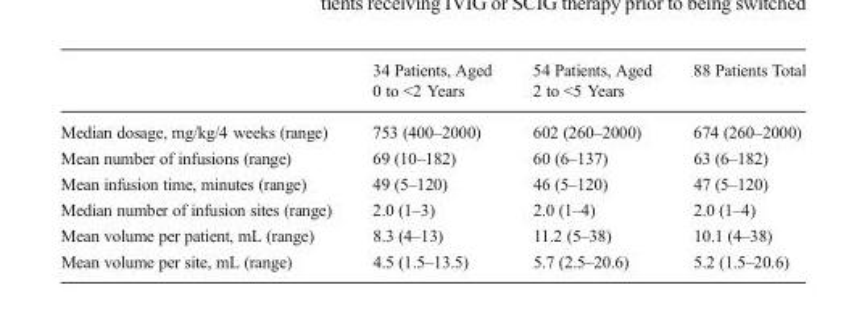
<table><thead><tr><td></td><td>34 Patients, Aged 0 to &lt;2 Years</td><td>54 Patients, Aged 2 to &lt;5 Years</td><td>88 Patients Total</td></tr></thead><tbody><tr><td>Median dosage, mg/kg/4 weeks (range)</td><td>753 (400–2000)</td><td>602 (260–2000)</td><td>674 (260–2000)</td></tr><tr><td>Mean number of infusions (range)</td><td>69 (10–182)</td><td>60 (6–137)</td><td>63 (6–182)</td></tr><tr><td>Mean infusion time, minutes (range)</td><td>49 (5–120)</td><td>46 (5–120)</td><td>47 (5–120)</td></tr><tr><td>Median number of infusion sites (range)</td><td>2.0 (1–3)</td><td>2.0 (1–4)</td><td>2.0 (1–4)</td></tr><tr><td>Mean volume per patient, mL (range)</td><td>8.3 (4–13)</td><td>11.2 (5–38)</td><td>10.1 (4–38)</td></tr><tr><td>Mean volume per site, mL (range)</td><td>4.5 (1.5–13.5)</td><td>5.7 (2.5–20.6)</td><td>5.2 (1.5–20.6)</td></tr></tbody></table>